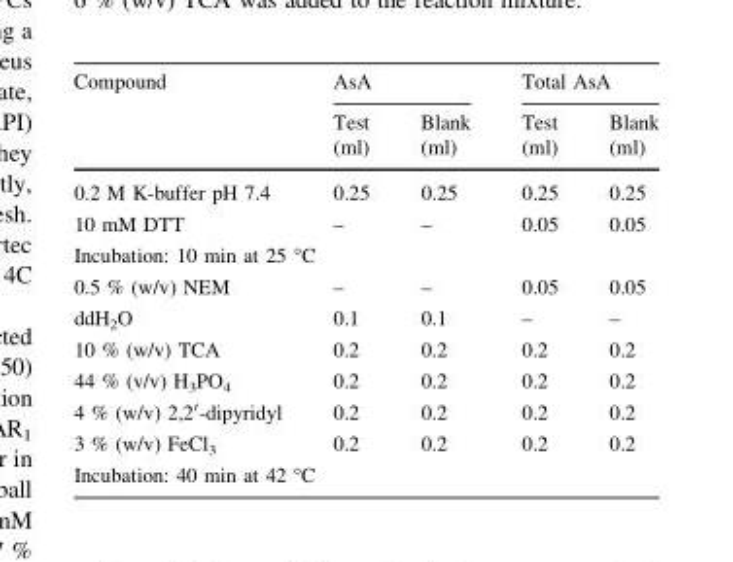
<table><thead><tr><td rowspan="2">Compound</td><td colspan="2">AsA</td><td colspan="2">Total AsA</td></tr><tr><td>Test (ml)</td><td>Blank (ml)</td><td>Test (ml)</td><td>Blank (ml)</td></tr></thead><tbody><tr><td>0.2 M K-buffer pH 7.4</td><td>0.25</td><td>0.25</td><td>0.25</td><td>0.25</td></tr><tr><td>10 mM DTT</td><td>–</td><td>–</td><td>0.05</td><td>0.05</td></tr><tr><td colspan="5">Incubation: 10 min at 25 °C</td></tr><tr><td>0.5 % (w/v) NEM</td><td>–</td><td>–</td><td>0.05</td><td>0.05</td></tr><tr><td>ddH<sub>2</sub>O</td><td>0.1</td><td>0.1</td><td>–</td><td>–</td></tr><tr><td>10 % (w/v) TCA</td><td>0.2</td><td>0.2</td><td>0.2</td><td>0.2</td></tr><tr><td>44 % (v/v) H<sub>3</sub>PO<sub>4</sub></td><td>0.2</td><td>0.2</td><td>0.2</td><td>0.2</td></tr><tr><td>4 % (w/v) 2,2′-dipyridyl</td><td>0.2</td><td>0.2</td><td>0.2</td><td>0.2</td></tr><tr><td>3 % (w/v) FeCl<sub>3</sub></td><td>0.2</td><td>0.2</td><td>0.2</td><td>0.2</td></tr><tr><td colspan="5">Incubation: 40 min at 42 °C</td></tr></tbody></table>